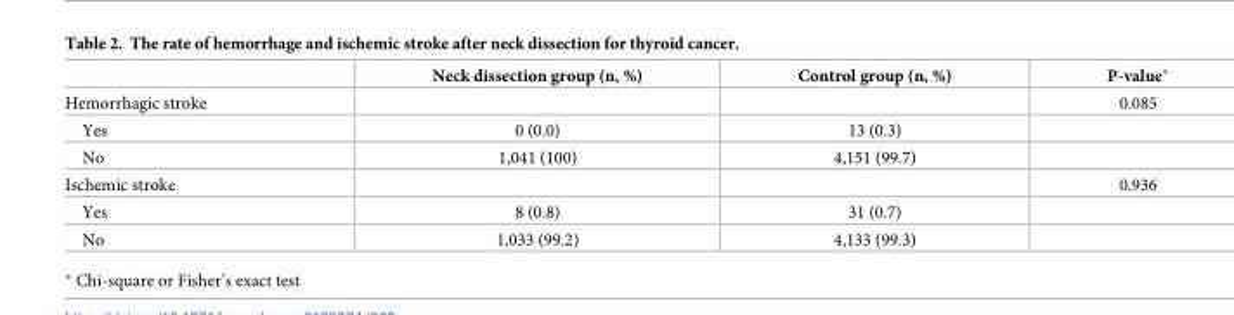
<table><thead><tr><td></td><td>Neck dissection group (n, %)</td><td>Control group (n, %)</td><td>P-value*</td></tr></thead><tbody><tr><td>Hemorrhagic stroke</td><td></td><td></td><td>0.085</td></tr><tr><td>Yes</td><td>0 (0.0)</td><td>13 (0.3)</td><td></td></tr><tr><td>No</td><td>1,041 (100)</td><td>4,151 (99.7)</td><td></td></tr><tr><td>Ischemic stroke</td><td></td><td></td><td>0.936</td></tr><tr><td>Yes</td><td>8 (0.8)</td><td>31 (0.7)</td><td></td></tr><tr><td>No</td><td>1,033 (99.2)</td><td>4,133 (99.3)</td><td></td></tr></tbody></table>